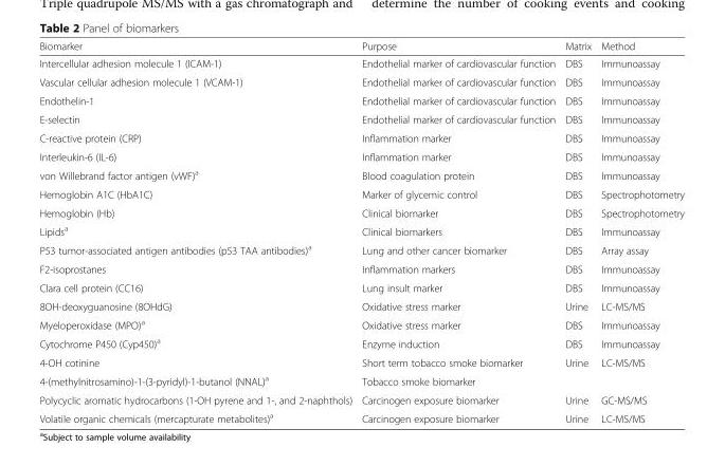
<table><thead><tr><td>Biomarker</td><td>Purpose</td><td>Matrix</td><td>Method</td></tr></thead><tbody><tr><td>Intercellular adhesion molecule 1 (ICAM-1)</td><td>Endothelial marker of cardiovascular function</td><td>DBS</td><td>Immunoassay</td></tr><tr><td>Vascular cellular adhesion molecule 1 (VCAM-1)</td><td>Endothelial marker of cardiovascular function</td><td>DBS</td><td>Immunoassay</td></tr><tr><td>Endothelin-1</td><td>Endothelial marker of cardiovascular function</td><td>DBS</td><td>Immunoassay</td></tr><tr><td>E-selectin</td><td>Endothelial marker of cardiovascular function</td><td>DBS</td><td>Immunoassay</td></tr><tr><td>C-reactive protein (CRP)</td><td>Inflammation marker</td><td>DBS</td><td>Immunoassay</td></tr><tr><td>Interleukin-6 (IL-6)</td><td>Inflammation marker</td><td>DBS</td><td>Immunoassay</td></tr><tr><td>von Willebrand factor antigen (vWF)<sup>a</sup></td><td>Blood coagulation protein</td><td>DBS</td><td>Immunoassay</td></tr><tr><td>Hemoglobin A1C (HbA1C)</td><td>Marker of glycemic control</td><td>DBS</td><td>Spectrophotometry</td></tr><tr><td>Hemoglobin (Hb)</td><td>Clinical biomarker</td><td>DBS</td><td>Spectrophotometry</td></tr><tr><td>Lipids<sup>a</sup></td><td>Clinical biomarkers</td><td>DBS</td><td>Immunoassay</td></tr><tr><td>P53 tumor-associated antigen antibodies (p53 TAA antibodies)<sup>a</sup></td><td>Lung and other cancer biomarker</td><td>DBS</td><td>Array assay</td></tr><tr><td>F2-isoprostanes</td><td>Inflammation markers</td><td>DBS</td><td>Immunoassay</td></tr><tr><td>Clara cell protein (CC16)</td><td>Lung insult marker</td><td>DBS</td><td>Immunoassay</td></tr><tr><td>8OH-deoxyguanosine (8OHdG)</td><td>Oxidative stress marker</td><td>Urine</td><td>LC-MS/MS</td></tr><tr><td>Myeloperoxidase (MPO)<sup>a</sup></td><td>Oxidative stress marker</td><td>DBS</td><td>Immunoassay</td></tr><tr><td>Cytochrome P450 (Cyp450)<sup>a</sup></td><td>Enzyme induction</td><td>DBS</td><td>Immunoassay</td></tr><tr><td>4-OH cotinine</td><td>Short term tobacco smoke biomarker</td><td>Urine</td><td>LC-MS/MS</td></tr><tr><td>4-(methylnitrosamino)-1-(3-pyridyl)-1-butanol (NNAL)<sup>a</sup></td><td>Tobacco smoke biomarker</td><td></td><td></td></tr><tr><td>Polycyclic aromatic hydrocarbons (1-OH pyrene and 1-, and 2-naphthols)</td><td>Carcinogen exposure biomarker</td><td>Urine</td><td>GC-MS/MS</td></tr><tr><td>Volatile organic chemicals (mercapturate metabolites)<sup>a</sup></td><td>Carcinogen exposure biomarker</td><td>Urine</td><td>LC-MS/MS</td></tr></tbody></table>